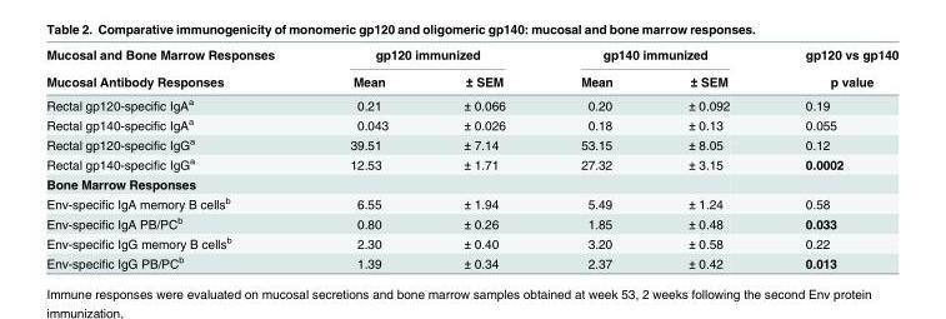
<table><thead><tr><td rowspan="2">Mucosal and Bone Marrow Responses Mucosal Antibody Responses</td><td colspan="2">gp120 immunized</td><td colspan="2">gp140 immunized</td><td rowspan="2">gp120 vs gp140 p value</td></tr><tr><td>Mean</td><td>± SEM</td><td>Mean</td><td>± SEM</td></tr></thead><tbody><tr><td>Rectal gp120-specific IgA<sup>a</sup></td><td>0.21</td><td>± 0.066</td><td>0.20</td><td>± 0.092</td><td>0.19</td></tr><tr><td>Rectal gp140-specific IgA<sup>a</sup></td><td>0.043</td><td>± 0.026</td><td>0.18</td><td>± 0.13</td><td>0.055</td></tr><tr><td>Rectal gp120-specific IgG<sup>a</sup></td><td>39.51</td><td>± 7.14</td><td>53.15</td><td>± 8.05</td><td>0.12</td></tr><tr><td>Rectal gp140-specific IgG<sup>a</sup></td><td>12.53</td><td>± 1.71</td><td>27.32</td><td>± 3.15</td><td>0.0002</td></tr><tr><td colspan="6">Bone Marrow Responses</td></tr><tr><td>Env-specific IgA memory B cells<sup>b</sup></td><td>6.55</td><td>± 1.94</td><td>5.49</td><td>± 1.24</td><td>0.58</td></tr><tr><td>Env-specific IgA PB/PC<sup>b</sup></td><td>0.80</td><td>± 0.26</td><td>1.85</td><td>± 0.48</td><td>0.033</td></tr><tr><td>Env-specific IgG memory B cells<sup>b</sup></td><td>2.30</td><td>± 0.40</td><td>3.20</td><td>± 0.58</td><td>0.22</td></tr><tr><td>Env-specific IgG PB/PC<sup>b</sup></td><td>1.39</td><td>± 0.34</td><td>2.37</td><td>± 0.42</td><td>0.013</td></tr></tbody></table>